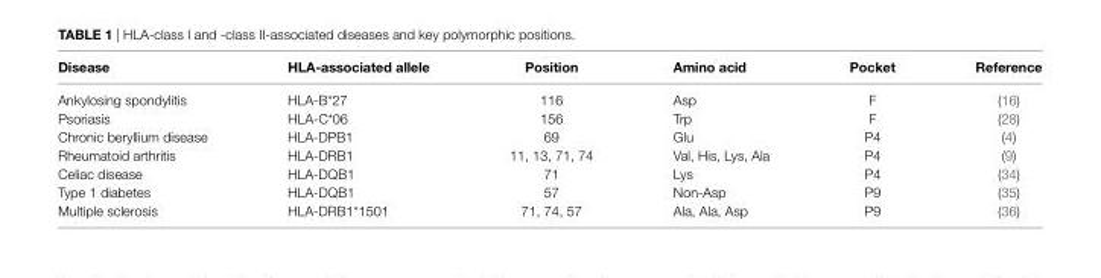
<table><thead><tr><td>Disease</td><td>HLA-associated allele</td><td>position</td><td>Amino acid</td><td>pocket</td><td>Reference</td></tr></thead><tbody><tr><td>Ankylosing spondylitis</td><td>HLA-B*27</td><td>116</td><td>Asp</td><td>F</td><td>(16)</td></tr><tr><td>Psoriasis</td><td>HLA-C*06</td><td>156</td><td>Trp</td><td>F</td><td>(28)</td></tr><tr><td>Chronic beryllium disease</td><td>HLA-DPB1</td><td>69</td><td>Glu</td><td>P4</td><td>(4)</td></tr><tr><td>Rheumatoid arthritis</td><td>HLA-DRB1</td><td>11, 13, 71, 74</td><td>Val, His, Lys, Ala</td><td>P4</td><td>(9)</td></tr><tr><td>Celiac disease</td><td>HLA-DQB1</td><td>71</td><td>Lys</td><td>P4</td><td>(34)</td></tr><tr><td>Type 1 diabetes</td><td>HLA-DQB1</td><td>57</td><td>Non-Asp</td><td>P9</td><td>(35)</td></tr><tr><td>Multiple sclerosis</td><td>HLA-DRB1*1501</td><td>71, 74, 57</td><td>Ala, Ala, Asp</td><td>P9</td><td>(36)</td></tr></tbody></table>